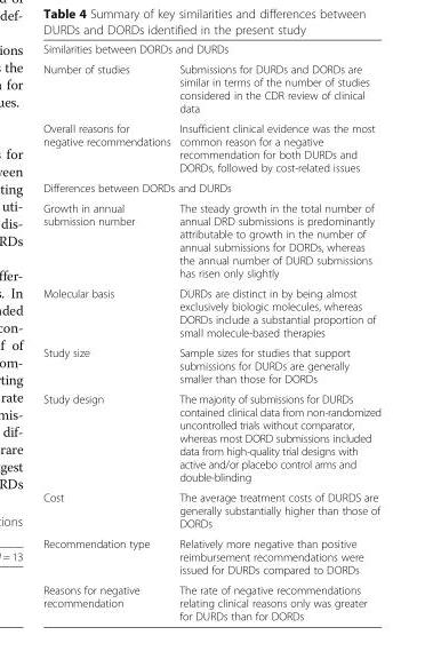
<table><tbody><tr><td colspan="2">Similarities between DORDs and DURDs</td></tr><tr><td>Number of studies</td><td>Submissions for DURDs and DORDs are similar in terms of the number of studies considered in the CDR review of clinical data</td></tr><tr><td>Overall reasons for negative recommendations</td><td>Insufficient clinical evidence was the most common reason for a negative recommendation for both DURDs and DORDs, followed by cost-related issues</td></tr><tr><td colspan="2">Differences between DORDs and DURDs</td></tr><tr><td>Growth in annual submission number</td><td>The steady growth in the total number of annual DRD submissions is predominantly attributable to growth in the number of annual submissions for DORDs, whereas the annual number of DURD submissions has risen only slightly</td></tr><tr><td>Molecular basis</td><td>DURDs are distinct in by being almost exclusively biologic molecules, whereas DORDs include a substantial proportion of small molecule-based therapies</td></tr><tr><td>Study size</td><td>Sample sizes for studies that support submissions for DURDs are generally smaller than those for DORDs</td></tr><tr><td>Study design</td><td>The majority of submissions for DURDs contained clinical data from non-randomized uncontrolled trials without comparator, whereas most DORD submissions included data from high-quality trial designs with active and/or placebo control arms and double-blinding</td></tr><tr><td>Cost</td><td>The average treatment costs of DURDS are generally substantially higher than those of DORDs</td></tr><tr><td>Recommendation type</td><td>Relatively more negative than positive reimbursement recommendations were issued for DURDs compared to DORDs</td></tr><tr><td>Reasons for negative recommendation</td><td>The rate of negative recommendations relating clinical reasons only was greater for DURDs than for DORDs</td></tr></tbody></table>